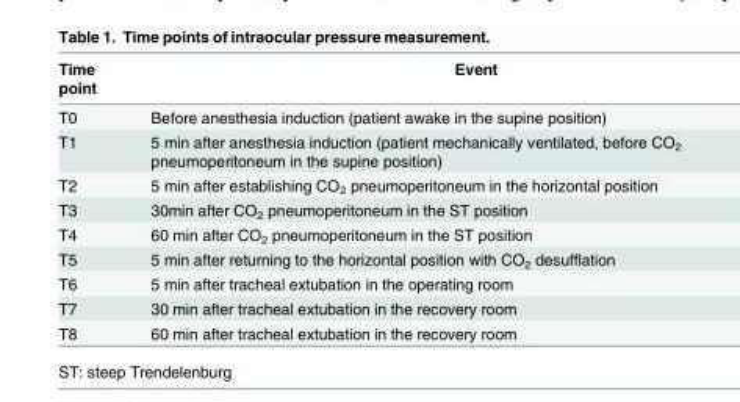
<table><thead><tr><td>Time point</td><td>Event</td></tr></thead><tbody><tr><td>T0</td><td>Before anesthesia induction (patient awake in the supine position)</td></tr><tr><td>T1</td><td>5 min after anesthesia induction (patient mechanically ventilated, before CO<sub>2</sub> pneumoperitoneum in the supine position)</td></tr><tr><td>T2</td><td>5 min after establishing CO<sub>2</sub> pneumoperitoneum in the horizontal position</td></tr><tr><td>T3</td><td>30min after CO<sub>2</sub> pneumoperitoneum in the ST position</td></tr><tr><td>T4</td><td>60 min after CO<sub>2</sub> pneumoperitoneum in the ST position</td></tr><tr><td>T5</td><td>5 min after returning to the horizontal position with CO<sub>2</sub> desufflation</td></tr><tr><td>T6</td><td>5 min after tracheal extubation in the operating room</td></tr><tr><td>T7</td><td>30 min after tracheal extubation in the recovery room</td></tr><tr><td>T8</td><td>60 min after tracheal extubation in the recovery room</td></tr></tbody></table>